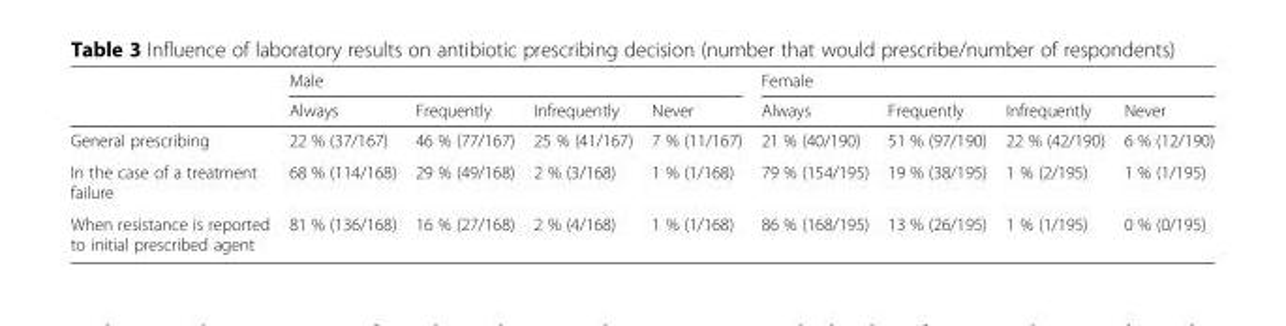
<table><thead><tr><td rowspan="2"></td><td colspan="4">Male</td><td colspan="4">Female</td></tr><tr><td>Always</td><td>Frequently</td><td>Infrequently</td><td>Never</td><td>Always</td><td>Frequently</td><td>Infrequently</td><td>Never</td></tr></thead><tbody><tr><td>General prescribing</td><td>22 % (37/167)</td><td>46 % (77/167)</td><td>25 % (41/167)</td><td>7 % (11/167)</td><td>21 % (40/190)</td><td>51 % (97/190)</td><td>22 % (42/190)</td><td>6 % (12/190)</td></tr><tr><td>In the case of a treatment failure</td><td>68 % (114/168)</td><td>29 % (49/168)</td><td>2 % (3/168)</td><td>1 % (1/168)</td><td>79 % (154/195)</td><td>19 % (38/195)</td><td>1 % (2/195)</td><td>1 % (1/195)</td></tr><tr><td>When resistance is reported to initial prescribed agent</td><td>81 % (136/168)</td><td>16 % (27/168)</td><td>2 % (4/168)</td><td>1 % (1/168)</td><td>86 % (168/195)</td><td>13 % (26/195)</td><td>1 % (1/195)</td><td>0 % (0/195)</td></tr></tbody></table>